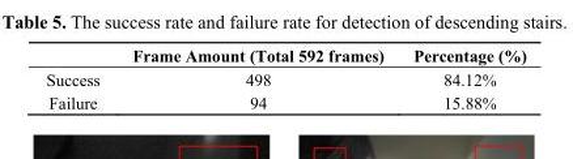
<table><thead><tr><td></td><td>Frame Amount (Total 592 frames)</td><td>Percentage (%)</td></tr></thead><tbody><tr><td>Success</td><td>498</td><td>84.12%</td></tr><tr><td>Failure</td><td>94</td><td>15.88%</td></tr></tbody></table>